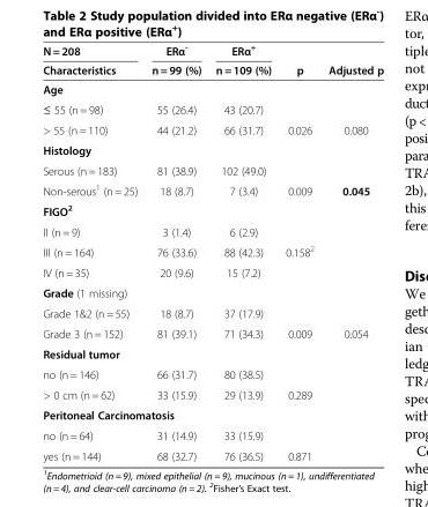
<table><thead><tr><td rowspan="2">N = 208 Characteristics</td><td rowspan="2">ERα<sup>-</sup> n = 99 (%)</td><td rowspan="2">ERα<sup>+</sup> n = 109 (%)</td><td rowspan="2">p</td><td rowspan="2">Adjusted p</td></tr><tr></tr></thead><tbody><tr><td colspan="5">Age</td></tr><tr><td>≤ 55 (n = 98)</td><td>55 (26.4)</td><td>43 (20.7)</td><td></td><td></td></tr><tr><td>&gt; 55 (n = 110)</td><td>44 (21.2)</td><td>66 (31.7)</td><td>0.026</td><td>0.080</td></tr><tr><td colspan="5">Histology</td></tr><tr><td>Serous (n = 183)</td><td>81 (38.9)</td><td>102 (49.0)</td><td></td><td></td></tr><tr><td>Non-serous<sup>1</sup> (n = 25)</td><td>18 (8.7)</td><td>7 (3.4)</td><td>0.009</td><td>0.045</td></tr><tr><td colspan="5">FIGO<sup>2</sup></td></tr><tr><td>II (n = 9)</td><td>3 (1.4)</td><td>6 (2.9)</td><td></td><td></td></tr><tr><td>III (n = 164)</td><td>76 (33.6)</td><td>88 (42.3)</td><td>0.158<sup>2</sup></td><td></td></tr><tr><td>IV (n = 35)</td><td>20 (9.6)</td><td>15 (7.2)</td><td></td><td></td></tr><tr><td colspan="5">Grade (1 missing)</td></tr><tr><td>Grade 1&amp;2 (n = 55)</td><td>18 (8.7)</td><td>37 (17.9)</td><td></td><td></td></tr><tr><td>Grade 3 (n = 152)</td><td>81 (39.1)</td><td>71 (34.3)</td><td>0.009</td><td>0.054</td></tr><tr><td colspan="5">Residual tumor</td></tr><tr><td>no (n = 146)</td><td>66 (31.7)</td><td>80 (38.5)</td><td></td><td></td></tr><tr><td>&gt; 0 cm (n = 62)</td><td>33 (15.9)</td><td>29 (13.9)</td><td>0.289</td><td></td></tr><tr><td colspan="5">Peritoneal Carcinomatosis</td></tr><tr><td>no (n = 64)</td><td>31 (14.9)</td><td>33 (15.9)</td><td></td><td></td></tr><tr><td>yes (n = 144)</td><td>68 (32.7)</td><td>76 (36.5)</td><td>0.871</td><td></td></tr></tbody></table>